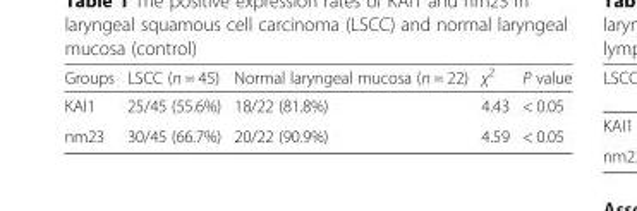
<table><thead><tr><td>Groups</td><td>LSCC (n = 45)</td><td>Normal laryngeal mucosa (n = 22)</td><td>χ2</td><td>P value</td></tr></thead><tbody><tr><td>KAI1</td><td>25/45 (55.6%)</td><td>18/22 (81.8%)</td><td>4.43</td><td>&lt; 0.05</td></tr><tr><td>nm23</td><td>30/45 (66.7%)</td><td>20/22 (90.9%)</td><td>4.59</td><td>&lt; 0.05</td></tr></tbody></table>